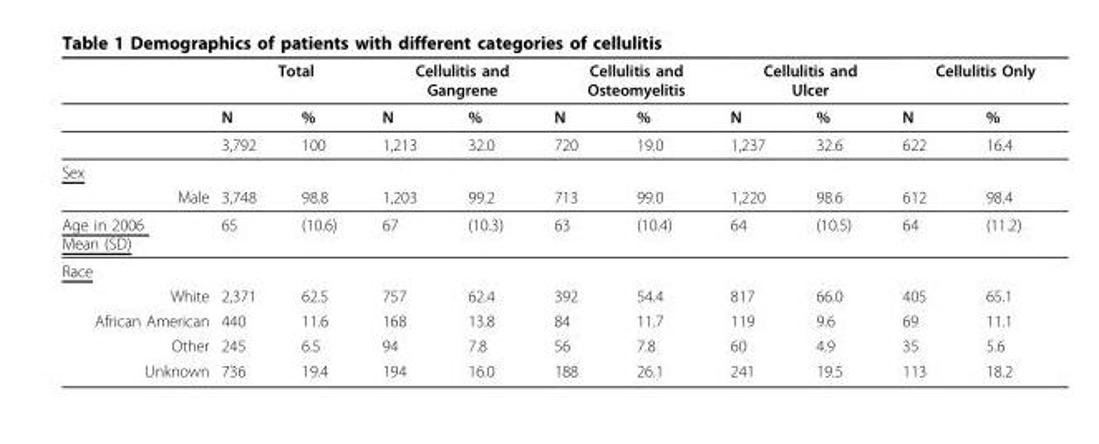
<table><thead><tr><td rowspan="2"></td><td colspan="2">Total</td><td colspan="2">Cellulitis and Gangrene</td><td colspan="2">Cellulitis and Osteomyelitis</td><td colspan="2">Cellulitis and Ulcer</td><td colspan="2">Cellulitis Only</td></tr><tr><td>N</td><td>%</td><td>N</td><td>%</td><td>N</td><td>%</td><td>N</td><td>%</td><td>N</td><td>%</td></tr></thead><tbody><tr><td></td><td>3,792</td><td>100</td><td>1,213</td><td>32.0</td><td>720</td><td>19.0</td><td>1,237</td><td>32.6</td><td>622</td><td>16.4</td></tr><tr><td colspan="11">Sex</td></tr><tr><td>Male</td><td>3,748</td><td>98.8</td><td>1,203</td><td>99.2</td><td>713</td><td>99.0</td><td>1,220</td><td>98.6</td><td>612</td><td>98.4</td></tr><tr><td>Age in 2006 Mean (SD)</td><td>65</td><td>(10.6)</td><td>67</td><td>(10.3)</td><td>63</td><td>(10.4)</td><td>64</td><td>(10.5)</td><td>64</td><td>(11.2)</td></tr><tr><td colspan="11">Race</td></tr><tr><td>White</td><td>2,371</td><td>62.5</td><td>757</td><td>62.4</td><td>392</td><td>54.4</td><td>817</td><td>66.0</td><td>405</td><td>65.1</td></tr><tr><td>African American</td><td>440</td><td>11.6</td><td>168</td><td>13.8</td><td>84</td><td>11.7</td><td>119</td><td>9.6</td><td>69</td><td>11.1</td></tr><tr><td>Other</td><td>245</td><td>6.5</td><td>94</td><td>7.8</td><td>56</td><td>7.8</td><td>60</td><td>4.9</td><td>35</td><td>5.6</td></tr><tr><td>Unknown</td><td>736</td><td>19.4</td><td>194</td><td>16.0</td><td>188</td><td>26.1</td><td>241</td><td>19.5</td><td>113</td><td>18.2</td></tr></tbody></table>